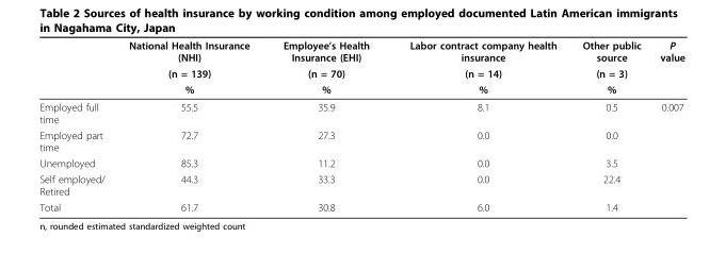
<table><thead><tr><td rowspan="3"></td><td rowspan="3">National Health Insurance (NHI) (n = 139) %</td><td rowspan="3">Employee’s Health Insurance (EHI) (n = 70) %</td><td rowspan="3">Labor contract company health insurance (n = 14) %</td><td rowspan="3">Other public source (n = 3) %</td><td rowspan="3">P value</td></tr><tr></tr><tr></tr></thead><tbody><tr><td>Employed full time</td><td>55.5</td><td>35.9</td><td>8.1</td><td>0.5</td><td>0.007</td></tr><tr><td>Employed part time</td><td>72.7</td><td>27.3</td><td>0.0</td><td>0.0</td><td></td></tr><tr><td>Unemployed</td><td>85.3</td><td>11.2</td><td>0.0</td><td>3.5</td><td></td></tr><tr><td>Self employed/ Retired</td><td>44.3</td><td>33.3</td><td>0.0</td><td>22.4</td><td></td></tr><tr><td>Total</td><td>61.7</td><td>30.8</td><td>6.0</td><td>1.4</td><td></td></tr></tbody></table>